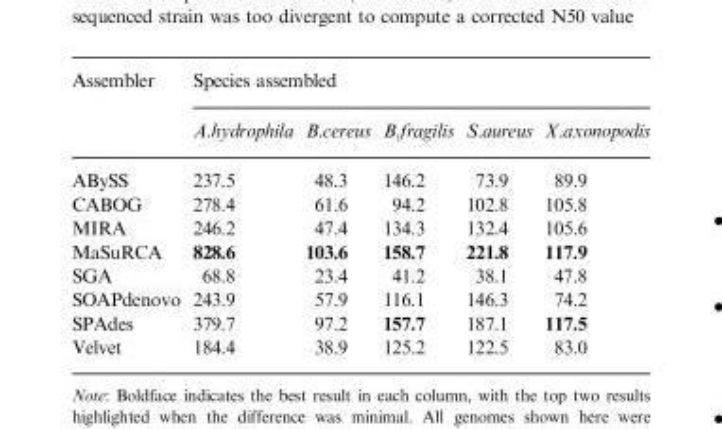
<table><thead><tr><td rowspan="2">Assembler</td><td colspan="5">Species assembled</td></tr><tr><td>A.hydrophila</td><td>B.cereus</td><td>B.fragilis</td><td>S.aureus</td><td>X.axonopodis</td></tr></thead><tbody><tr><td>ABySS</td><td>237.5</td><td>48.3</td><td>146.2</td><td>73.9</td><td>89.9</td></tr><tr><td>CABOG</td><td>278.4</td><td>61.6</td><td>94.2</td><td>102.8</td><td>105.8</td></tr><tr><td>MIRA</td><td>246.2</td><td>47.4</td><td>134.3</td><td>132.4</td><td>105.6</td></tr><tr><td>MaSuRCA</td><td>828.6</td><td>103.6</td><td>158.7</td><td>221.8</td><td>117.9</td></tr><tr><td>SGA</td><td>68.8</td><td>23.4</td><td>41.2</td><td>38.1</td><td>47.8</td></tr><tr><td>SOAPdenovo</td><td>243.9</td><td>57.9</td><td>116.1</td><td>146.3</td><td>74.2</td></tr><tr><td>SPAdes</td><td>379.7</td><td>97.2</td><td>157.7</td><td>187.1</td><td>117.5</td></tr><tr><td>Velvet</td><td>184.4</td><td>38.9</td><td>125.2</td><td>122.5</td><td>83.0</td></tr></tbody></table>